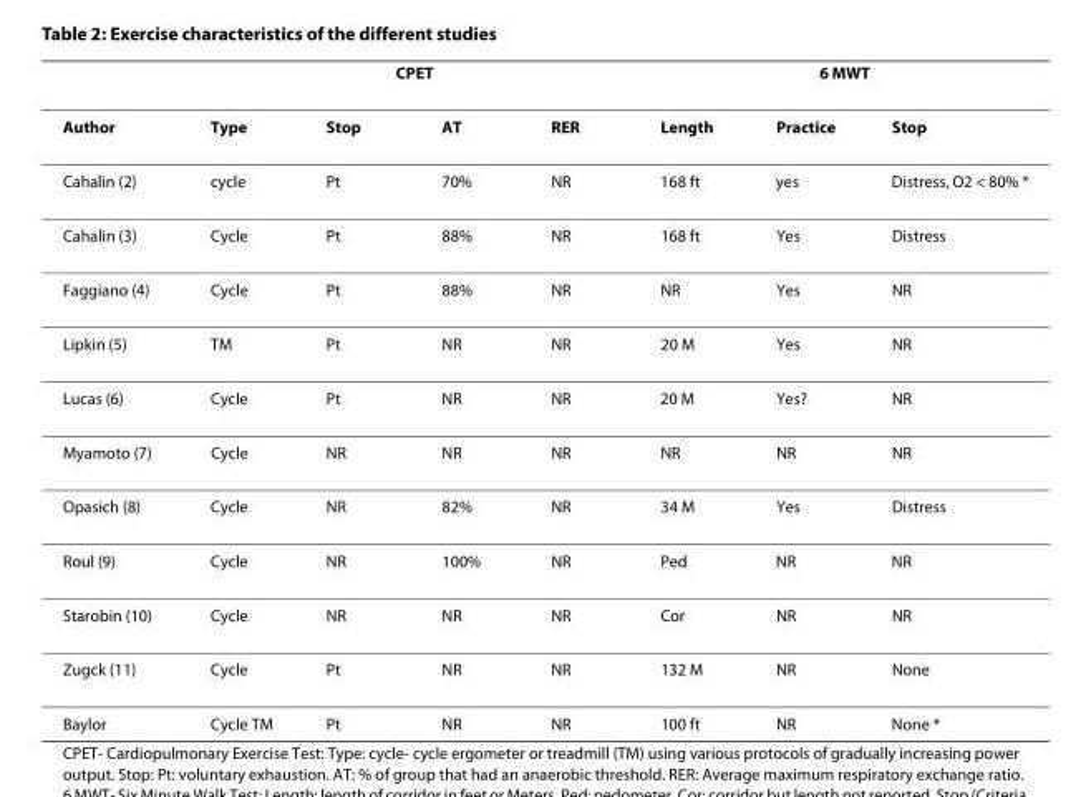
<table><thead><tr><td rowspan="2">Author</td><td colspan="4">CPET</td><td colspan="3">6 MWT</td></tr><tr><td>Type</td><td>Stop</td><td>AT</td><td>RER</td><td>Length</td><td>Practice</td><td>Stop</td></tr></thead><tbody><tr><td>Cahalin (2)</td><td>cycle</td><td>Pt</td><td>70%</td><td>NR</td><td>168 ft</td><td>yes</td><td>Distress, O2 &lt; 80% *</td></tr><tr><td>Cahalin (3)</td><td>Cycle</td><td>Pt</td><td>88%</td><td>NR</td><td>168 ft</td><td>Yes</td><td>Distress</td></tr><tr><td>Faggiano (4)</td><td>Cycle</td><td>Pt</td><td>88%</td><td>NR</td><td>NR</td><td>Yes</td><td>NR</td></tr><tr><td>Lipkin (5)</td><td>TM</td><td>Pt</td><td>NR</td><td>NR</td><td>20 M</td><td>Yes</td><td>NR</td></tr><tr><td>Lucas (6)</td><td>Cycle</td><td>Pt</td><td>NR</td><td>NR</td><td>20 M</td><td>Yes?</td><td>NR</td></tr><tr><td>Myamoto (7)</td><td>Cycle</td><td>NR</td><td>NR</td><td>NR</td><td>NR</td><td>NR</td><td>NR</td></tr><tr><td>Opasich (8)</td><td>Cycle</td><td>NR</td><td>82%</td><td>NR</td><td>34 M</td><td>Yes</td><td>Distress</td></tr><tr><td>Roul (9)</td><td>Cycle</td><td>NR</td><td>100%</td><td>NR</td><td>Ped</td><td>NR</td><td>NR</td></tr><tr><td>Starobin (10)</td><td>Cycle</td><td>NR</td><td>NR</td><td>NR</td><td>Cor</td><td>NR</td><td>NR</td></tr><tr><td>Zugck (11)</td><td>Cycle</td><td>Pt</td><td>NR</td><td>NR</td><td>132 M</td><td>NR</td><td>None</td></tr><tr><td>Baylor</td><td>Cycle TM</td><td>Pt</td><td>NR</td><td>NR</td><td>100 ft</td><td>NR</td><td>None *</td></tr></tbody></table>